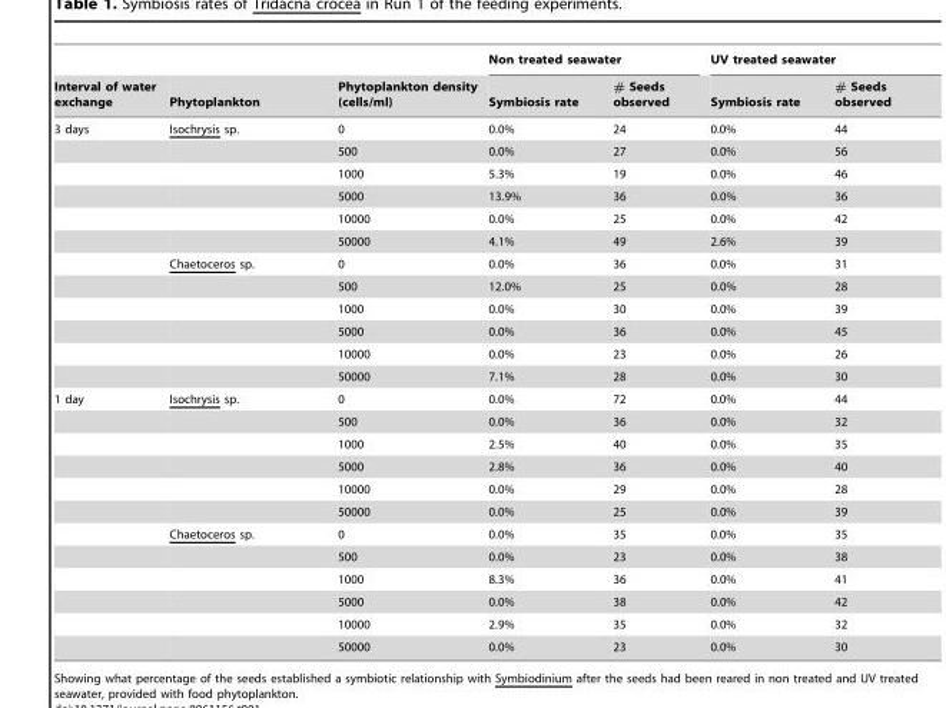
<table><thead><tr><td rowspan="2">Interval of water exchange</td><td rowspan="2">Phytoplankton</td><td rowspan="2">Phytoplankton density (cells/ml)</td><td colspan="2">Non treated seawater</td><td colspan="2">UV treated seawater</td></tr><tr><td>Symbiosis rate</td><td># Seeds observed</td><td>Symbiosis rate</td><td># Seeds observed</td></tr></thead><tbody><tr><td rowspan="12">3 days</td><td>Isochrysis sp.</td><td>0</td><td>0.0%</td><td>24</td><td>0.0%</td><td>44</td></tr><tr><td></td><td>500</td><td>0.0%</td><td>27</td><td>0.0%</td><td>56</td></tr><tr><td></td><td>1000</td><td>5.3%</td><td>19</td><td>0.0%</td><td>46</td></tr><tr><td></td><td>5000</td><td>13.9%</td><td>36</td><td>0.0%</td><td>36</td></tr><tr><td></td><td>10000</td><td>0.0%</td><td>25</td><td>0.0%</td><td>42</td></tr><tr><td></td><td>50000</td><td>4.1%</td><td>49</td><td>2.6%</td><td>39</td></tr><tr><td>Chaetoceros sp.</td><td>0</td><td>0.0%</td><td>36</td><td>0.0%</td><td>31</td></tr><tr><td></td><td>500</td><td>12.0%</td><td>25</td><td>0.0%</td><td>28</td></tr><tr><td></td><td>1000</td><td>0.0%</td><td>30</td><td>0.0%</td><td>39</td></tr><tr><td></td><td>5000</td><td>0.0%</td><td>36</td><td>0.0%</td><td>45</td></tr><tr><td></td><td>10000</td><td>0.0%</td><td>23</td><td>0.0%</td><td>26</td></tr><tr><td></td><td>50000</td><td>7.1%</td><td>28</td><td>0.0%</td><td>30</td></tr><tr><td rowspan="12">1 day</td><td>Isochrysis sp.</td><td>0</td><td>0.0%</td><td>72</td><td>0.0%</td><td>44</td></tr><tr><td></td><td>500</td><td>0.0%</td><td>36</td><td>0.0%</td><td>32</td></tr><tr><td></td><td>1000</td><td>2.5%</td><td>40</td><td>0.0%</td><td>35</td></tr><tr><td></td><td>5000</td><td>2.8%</td><td>36</td><td>0.0%</td><td>40</td></tr><tr><td></td><td>10000</td><td>0.0%</td><td>29</td><td>0.0%</td><td>28</td></tr><tr><td></td><td>50000</td><td>0.0%</td><td>25</td><td>0.0%</td><td>39</td></tr><tr><td>Chaetoceros sp.</td><td>0</td><td>0.0%</td><td>35</td><td>0.0%</td><td>35</td></tr><tr><td></td><td>500</td><td>0.0%</td><td>23</td><td>0.0%</td><td>38</td></tr><tr><td></td><td>1000</td><td>8.3%</td><td>36</td><td>0.0%</td><td>41</td></tr><tr><td></td><td>5000</td><td>0.0%</td><td>38</td><td>0.0%</td><td>42</td></tr><tr><td></td><td>10000</td><td>2.9%</td><td>35</td><td>0.0%</td><td>32</td></tr><tr><td></td><td>50000</td><td>0.0%</td><td>23</td><td>0.0%</td><td>30</td></tr></tbody></table>